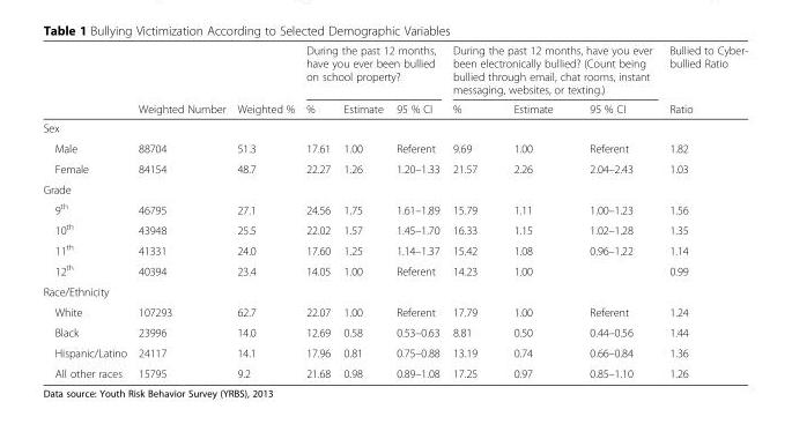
<table><thead><tr><td rowspan="2"></td><td rowspan="2">Weighted Number</td><td rowspan="2">Weighted %</td><td colspan="3">During the past 12 months, have you ever been bullied on school property?</td><td colspan="3">During the past 12 months, have you ever been electronically bullied? (Count being bullied through email, chat rooms, instant messaging, websites, or texting.)</td><td rowspan="2">Bullied to Cyber- bullied Ratio Ratio</td></tr><tr><td>%</td><td>Estimate</td><td>95 % CI</td><td>%</td><td>Estimate</td><td>95 % CI</td></tr></thead><tbody><tr><td colspan="10">Sex</td></tr><tr><td>Male</td><td>88704</td><td>51.3</td><td>17.61</td><td>1.00</td><td>Referent</td><td>9.69</td><td>1.00</td><td>Referent</td><td>1.82</td></tr><tr><td>Female</td><td>84154</td><td>48.7</td><td>22.27</td><td>1.26</td><td>1.20–1.33</td><td>21.57</td><td>2.26</td><td>2.04–2.43</td><td>1.03</td></tr><tr><td colspan="10">Grade</td></tr><tr><td>9<sup>th</sup></td><td>46795</td><td>27.1</td><td>24.56</td><td>1.75</td><td>1.61–1.89</td><td>15.79</td><td>1.11</td><td>1.00–1.23</td><td>1.56</td></tr><tr><td>10<sup>th</sup></td><td>43948</td><td>25.5</td><td>22.02</td><td>1.57</td><td>1.45–1.70</td><td>16.33</td><td>1.15</td><td>1.02–1.28</td><td>1.35</td></tr><tr><td>11<sup>th</sup></td><td>41331</td><td>24.0</td><td>17.60</td><td>1.25</td><td>1.14–1.37</td><td>15.42</td><td>1.08</td><td>0.96–1.22</td><td>1.14</td></tr><tr><td>12<sup>th</sup></td><td>40394</td><td>23.4</td><td>14.05</td><td>1.00</td><td>Referent</td><td>14.23</td><td>1.00</td><td></td><td>0.99</td></tr><tr><td colspan="10">Race/Ethnicity</td></tr><tr><td>White</td><td>107293</td><td>62.7</td><td>22.07</td><td>1.00</td><td>Referent</td><td>17.79</td><td>1.00</td><td>Referent</td><td>1.24</td></tr><tr><td>Black</td><td>23996</td><td>14.0</td><td>12.69</td><td>0.58</td><td>0.53–0.63</td><td>8.81</td><td>0.50</td><td>0.44–0.56</td><td>1.44</td></tr><tr><td>Hispanic/Latino</td><td>24117</td><td>14.1</td><td>17.96</td><td>0.81</td><td>0.75–0.88</td><td>13.19</td><td>0.74</td><td>0.66–0.84</td><td>1.36</td></tr><tr><td>All other races</td><td>15795</td><td>9.2</td><td>21.68</td><td>0.98</td><td>0.89–1.08</td><td>17.25</td><td>0.97</td><td>0.85–1.10</td><td>1.26</td></tr></tbody></table>